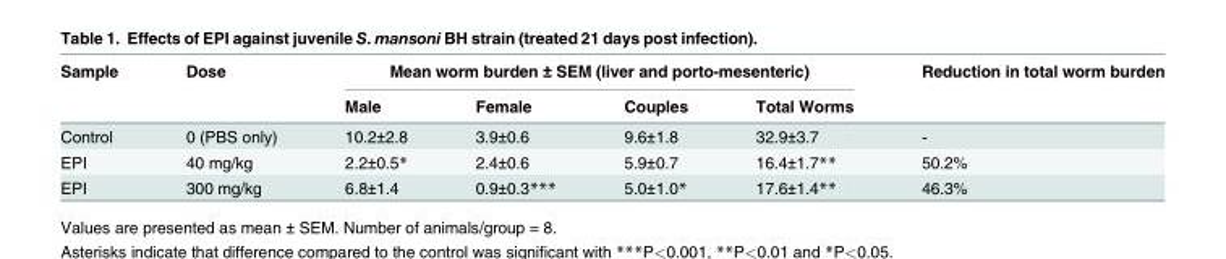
<table><thead><tr><td rowspan="2">Sample</td><td rowspan="2">Dose</td><td colspan="4">Mean worm burden ± SEM (liver and porto-mesenteric)</td><td rowspan="2">Reduction in total worm burden</td></tr><tr><td>Male</td><td>Female</td><td>Couples</td><td>Total Worms</td></tr></thead><tbody><tr><td>Control</td><td>0 (PBS only)</td><td>10.2±2.8</td><td>3.9±0.6</td><td>9.6±1.8</td><td>32.9±3.7</td><td>-</td></tr><tr><td>EPI</td><td>40 mg/kg</td><td>2.2±0.5*</td><td>2.4±0.6</td><td>5.9±0.7</td><td>16.4±1.7**</td><td>50.2%</td></tr><tr><td>EPI</td><td>300 mg/kg</td><td>6.8±1.4</td><td>0.9±0.3***</td><td>5.0±1.0*</td><td>17.6±1.4**</td><td>46.3%</td></tr></tbody></table>